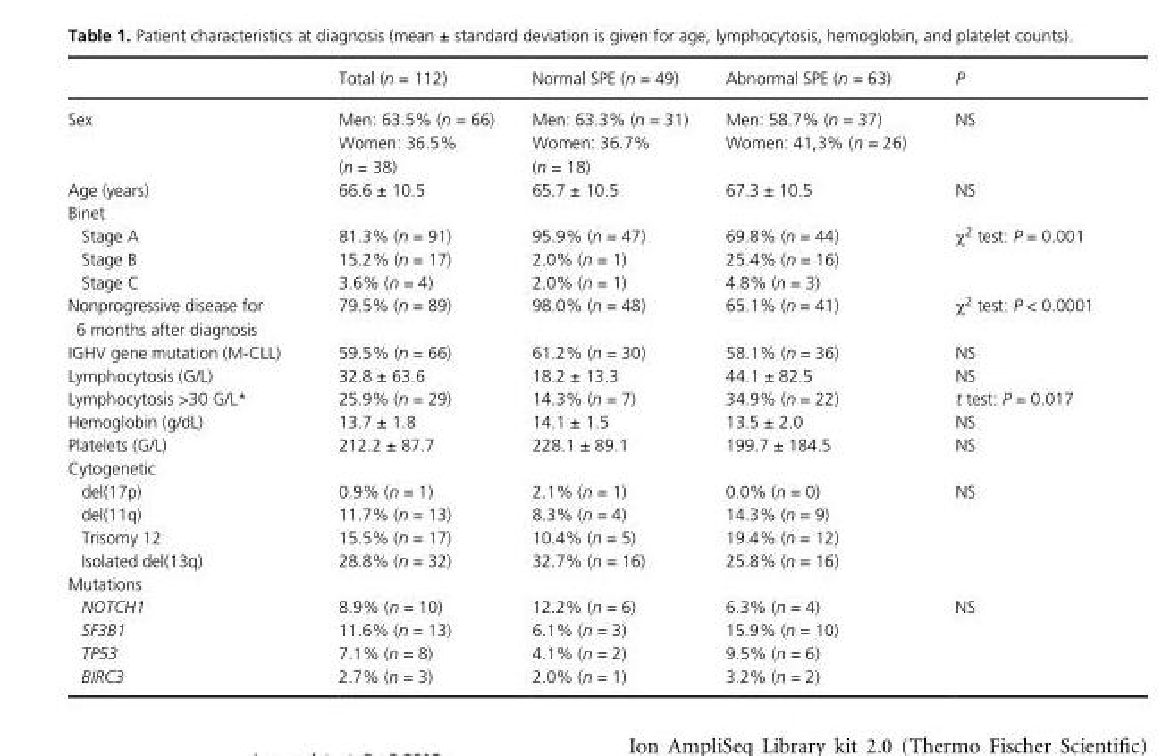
<table><thead><tr><td></td><td>Total (n = 112)</td><td>Normal SPE (n = 49)</td><td>Abnormal SPE (n = 63)</td><td>P</td></tr></thead><tbody><tr><td rowspan="2">Sex</td><td>Men: 63.5% (n = 66)</td><td>Men: 63.3% (n = 31)</td><td>Men: 58.7% (n = 37)</td><td rowspan="2">NS</td></tr><tr><td>Women: 36.5% (n = 38)</td><td>Women: 36.7% (n = 18)</td><td>Women: 41,3% (n = 26)</td></tr><tr><td>Age (years)</td><td>66.6 ± 10.5</td><td>65.7 ± 10.5</td><td>67.3 ± 10.5</td><td>NS</td></tr><tr><td colspan="5">Binet</td></tr><tr><td>Stage A</td><td>81.3% (n = 91)</td><td>95.9% (n = 47)</td><td>69.8% (n = 44)</td><td rowspan="3">χ<sup>2</sup> test: P = 0.001</td></tr><tr><td>Stage B</td><td>15.2% (n = 17)</td><td>2.0% (n = 1)</td><td>25.4% (n = 16)</td></tr><tr><td>Stage C</td><td>3.6% (n = 4)</td><td>2.0% (n = 1)</td><td>4.8% (n = 3)</td></tr><tr><td>Nonprogressive disease for 6 months after diagnosis</td><td>79.5% (n = 89)</td><td>98.0% (n = 48)</td><td>65.1% (n = 41)</td><td>χ<sup>2</sup> test: P &lt; 0.0001</td></tr><tr><td>IGHV gene mutation (M- CLL)</td><td>59.5% (n = 66)</td><td>61.2% (n = 30)</td><td>58.1% (n = 36)</td><td>NS</td></tr><tr><td>Lymphocytosis (G/L)</td><td>32.8 ± 63.6</td><td>18.2 ± 13.3</td><td>44.1 ± 82.5</td><td>NS</td></tr><tr><td>Lymphocytosis &gt;30 G/L*</td><td>25.9% (n = 29)</td><td>14.3% (n = 7)</td><td>34.9% (n = 22)</td><td>t test: P = 0.017</td></tr><tr><td>Hemoglobin (g/dL)</td><td>13.7 ± 1.8</td><td>14.1 ± 1.5</td><td>13.5 ± 2.0</td><td>NS</td></tr><tr><td>Platelets (G/L)</td><td>212.2 ± 87.7</td><td>228.1 ± 89.1</td><td>199.7 ± 184.5</td><td>NS</td></tr><tr><td colspan="5">Cytogenetic</td></tr><tr><td>del(17p)</td><td>0.9% (n = 1)</td><td>2.1% (n = 1)</td><td>0.0% (n = 0)</td><td rowspan="4">NS</td></tr><tr><td>del(11q)</td><td>11.7% (n = 13)</td><td>8.3% (n = 4)</td><td>14.3% (n = 9)</td></tr><tr><td>Trisomy 12</td><td>15.5% (n = 17)</td><td>10.4% (n = 5)</td><td>19.4% (n = 12)</td></tr><tr><td>Isolated del(13q)</td><td>28.8% (n = 32)</td><td>32.7% (n = 16)</td><td>25.8% (n = 16)</td></tr><tr><td colspan="5">Mutations</td></tr><tr><td>NOTCH1</td><td>8.9% (n = 10)</td><td>12.2% (n = 6)</td><td>6.3% (n = 4)</td><td rowspan="4">NS</td></tr><tr><td>SF3B1</td><td>11.6% (n = 13)</td><td>6.1% (n = 3)</td><td>15.9% (n = 10)</td></tr><tr><td>TP53</td><td>7.1% (n = 8)</td><td>4.1% (n = 2)</td><td>9.5% (n = 6)</td></tr><tr><td>BIRC3</td><td>2.7% (n = 3)</td><td>2.0% (n = 1)</td><td>3.2% (n = 2)</td></tr></tbody></table>